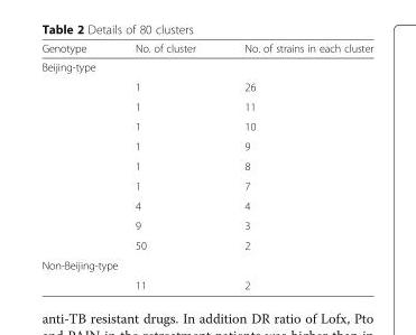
<table><thead><tr><td>Genotype</td><td>No. of cluster</td><td>No. of strains in each cluster</td></tr></thead><tbody><tr><td colspan="3">Beijing-type</td></tr><tr><td></td><td>1</td><td>26</td></tr><tr><td></td><td>1</td><td>11</td></tr><tr><td></td><td>1</td><td>10</td></tr><tr><td></td><td>1</td><td>9</td></tr><tr><td></td><td>1</td><td>8</td></tr><tr><td></td><td>1</td><td>7</td></tr><tr><td></td><td>4</td><td>4</td></tr><tr><td></td><td>9</td><td>3</td></tr><tr><td></td><td>50</td><td>2</td></tr><tr><td colspan="3">Non-Beijing-type</td></tr><tr><td></td><td>11</td><td>2</td></tr></tbody></table>